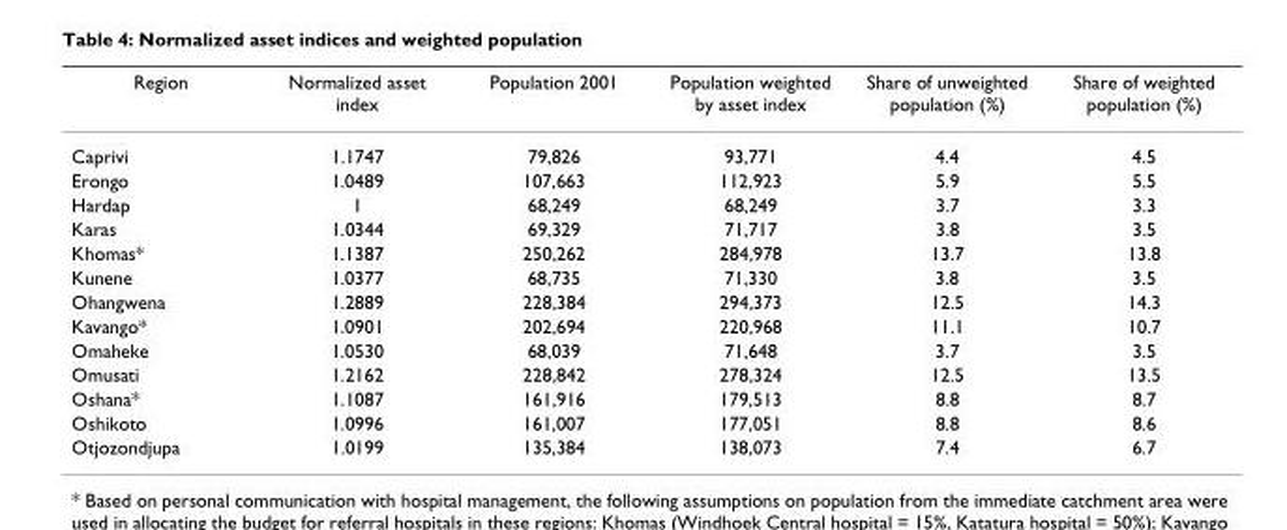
<table><thead><tr><td>Region</td><td>Normalized asset index</td><td>Population 2001</td><td>Population weighted by asset index</td><td>Share of unweighted population (%)</td><td>Share of weighted population (%)</td></tr></thead><tbody><tr><td>Caprivi</td><td>1.1747</td><td>79,826</td><td>93,771</td><td>4.4</td><td>4.5</td></tr><tr><td>Erongo</td><td>1.0489</td><td>107,663</td><td>112,923</td><td>5.9</td><td>5.5</td></tr><tr><td>Hardap</td><td>1</td><td>68,249</td><td>68,249</td><td>3.7</td><td>3.3</td></tr><tr><td>Karas</td><td>1.0344</td><td>69,329</td><td>71,717</td><td>3.8</td><td>3.5</td></tr><tr><td>Khomas*</td><td>1.1387</td><td>250,262</td><td>284,978</td><td>13.7</td><td>13.8</td></tr><tr><td>Kunene</td><td>1.0377</td><td>68,735</td><td>71,330</td><td>3.8</td><td>3.5</td></tr><tr><td>Ohangwena</td><td>1.2889</td><td>228,384</td><td>294,373</td><td>12.5</td><td>14.3</td></tr><tr><td>Kavango*</td><td>1.0901</td><td>202,694</td><td>220,968</td><td>11.1</td><td>10.7</td></tr><tr><td>Omaheke</td><td>1.0530</td><td>68,039</td><td>71,648</td><td>3.7</td><td>3.5</td></tr><tr><td>Omusati</td><td>1.2162</td><td>228,842</td><td>278,324</td><td>12.5</td><td>13.5</td></tr><tr><td>Oshana*</td><td>1.1087</td><td>161,916</td><td>179,513</td><td>8.8</td><td>8.7</td></tr><tr><td>Oshikoto</td><td>1.0996</td><td>161,007</td><td>177,051</td><td>8.8</td><td>8.6</td></tr><tr><td>Otjozondjupa</td><td>1.0199</td><td>135,384</td><td>138,073</td><td>7.4</td><td>6.7</td></tr></tbody></table>